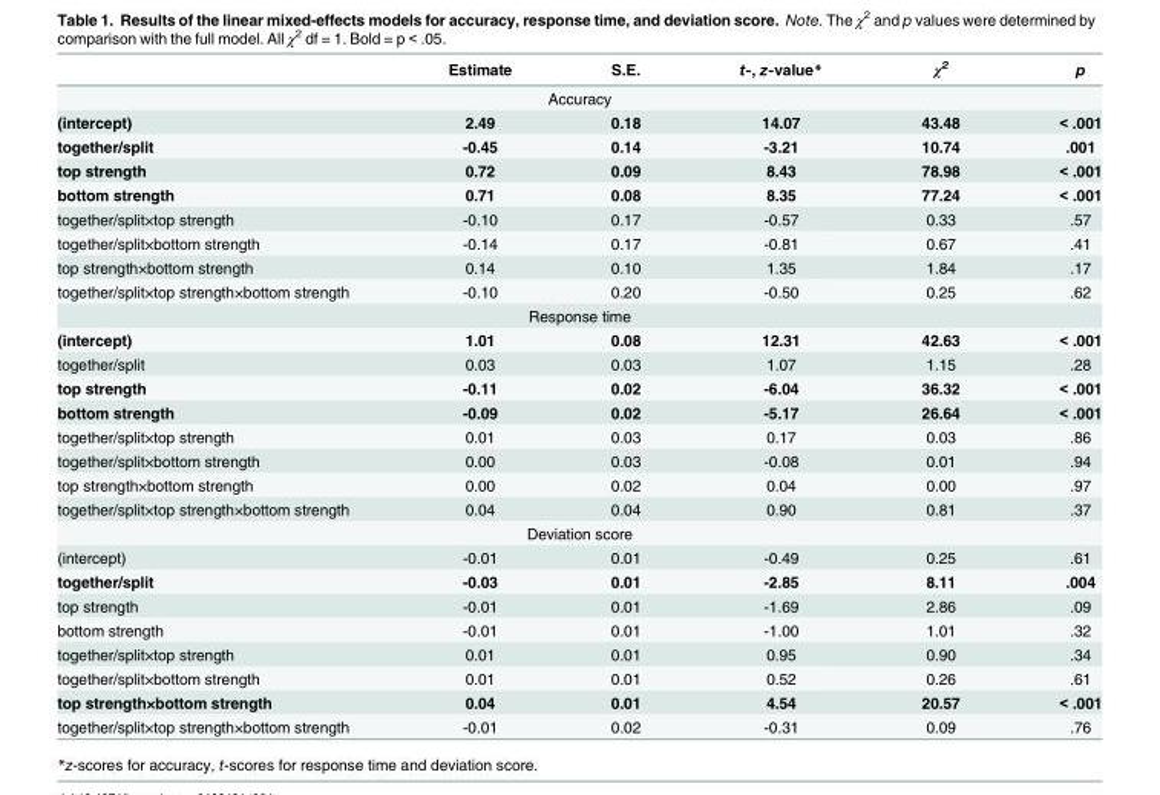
<table><thead><tr><td></td><td>Estimate</td><td>S.E.</td><td>t-, z-value*</td><td>χ<sup>2</sup></td><td>p</td></tr></thead><tbody><tr><td colspan="6">Accuracy</td></tr><tr><td>(intercept)</td><td>2.49</td><td>0.18</td><td>14.07</td><td>43.48</td><td>&lt; .001</td></tr><tr><td>together/split</td><td>-0.45</td><td>0.14</td><td>-3.21</td><td>10.74</td><td>.001</td></tr><tr><td>top strength</td><td>0.72</td><td>0.09</td><td>8.43</td><td>78.98</td><td>&lt; .001</td></tr><tr><td>bottom strength</td><td>0.71</td><td>0.08</td><td>8.35</td><td>77.24</td><td>&lt; .001</td></tr><tr><td>together/split×top strength</td><td>-0.10</td><td>0.17</td><td>-0.57</td><td>0.33</td><td>.57</td></tr><tr><td>together/split×bottom strength</td><td>-0.14</td><td>0.17</td><td>-0.81</td><td>0.67</td><td>.41</td></tr><tr><td>top strength×bottom strength</td><td>0.14</td><td>0.10</td><td>1.35</td><td>1.84</td><td>.17</td></tr><tr><td>together/split×top strength×bottom strength</td><td>-0.10</td><td>0.20</td><td>-0.50</td><td>0.25</td><td>.62</td></tr><tr><td colspan="6">Response time</td></tr><tr><td>(intercept)</td><td>1.01</td><td>0.08</td><td>12.31</td><td>42.63</td><td>&lt; .001</td></tr><tr><td>together/split</td><td>0.03</td><td>0.03</td><td>1.07</td><td>1.15</td><td>.28</td></tr><tr><td>top strength</td><td>-0.11</td><td>0.02</td><td>-6.04</td><td>36.32</td><td>&lt; .001</td></tr><tr><td>bottom strength</td><td>-0.09</td><td>0.02</td><td>-5.17</td><td>26.64</td><td>&lt; .001</td></tr><tr><td>together/split×top strength</td><td>0.01</td><td>0.03</td><td>0.17</td><td>0.03</td><td>.86</td></tr><tr><td>together/split×bottom strength</td><td>0.00</td><td>0.03</td><td>-0.08</td><td>0.01</td><td>.94</td></tr><tr><td>top strength×bottom strength</td><td>0.00</td><td>0.02</td><td>0.04</td><td>0.00</td><td>.97</td></tr><tr><td>together/split×top strength×bottom strength</td><td>0.04</td><td>0.04</td><td>0.90</td><td>0.81</td><td>.37</td></tr><tr><td colspan="6">Deviation score</td></tr><tr><td>(intercept)</td><td>-0.01</td><td>0.01</td><td>-0.49</td><td>0.25</td><td>.61</td></tr><tr><td>together/split</td><td>-0.03</td><td>0.01</td><td>-2.85</td><td>8.11</td><td>.004</td></tr><tr><td>top strength</td><td>-0.01</td><td>0.01</td><td>-1.69</td><td>2.86</td><td>.09</td></tr><tr><td>bottom strength</td><td>-0.01</td><td>0.01</td><td>-1.00</td><td>1.01</td><td>.32</td></tr><tr><td>together/split×top strength</td><td>0.01</td><td>0.01</td><td>0.95</td><td>0.90</td><td>.34</td></tr><tr><td>together/split×bottom strength</td><td>0.01</td><td>0.01</td><td>0.52</td><td>0.26</td><td>.61</td></tr><tr><td>top strength×bottom strength</td><td>0.04</td><td>0.01</td><td>4.54</td><td>20.57</td><td>&lt; .001</td></tr><tr><td>together/split×top strength×bottom strength</td><td>-0.01</td><td>0.02</td><td>-0.31</td><td>0.09</td><td>.76</td></tr></tbody></table>